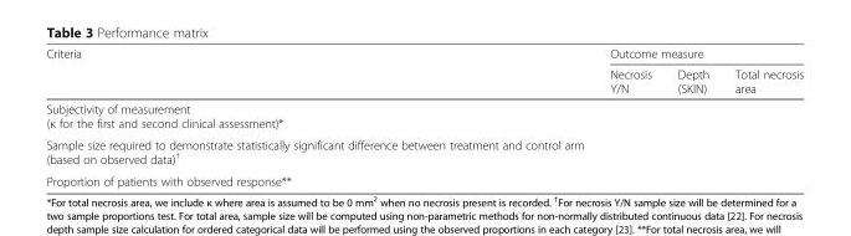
<table><thead><tr><td rowspan="2">Criteria</td><td colspan="3">Outcome measure</td></tr><tr><td>Necrosis Y/N</td><td>Depth (SKIN)</td><td>Total necrosis area</td></tr></thead><tbody><tr><td colspan="4">Subjectivity of measurement (κ for the first and second clinical assessment)*</td></tr><tr><td colspan="4">Sample size required to demonstrate statistically significant difference between treatment and control arm (based on observed data)<sup>†</sup></td></tr><tr><td>Proportion of patients with observed response**</td><td></td><td></td><td></td></tr></tbody></table>